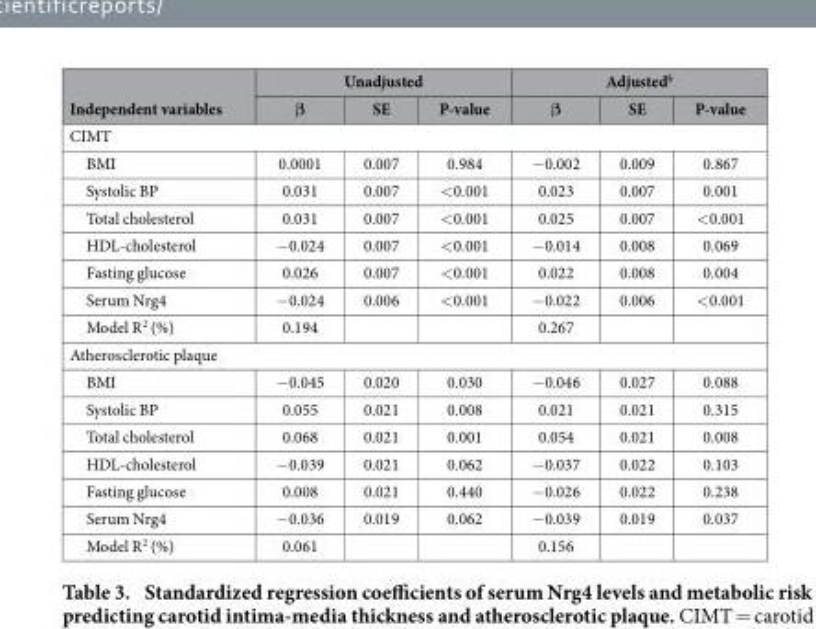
<table><thead><tr><td rowspan="2">Independent variables</td><td colspan="3">Unadjusted</td><td colspan="3">Adjusted<sup>§</sup></td></tr><tr><td>β</td><td>SE</td><td>P-value</td><td>β</td><td>SE</td><td>P-value</td></tr></thead><tbody><tr><td colspan="7">CIMT</td></tr><tr><td>BMI</td><td>0.0001</td><td>0.007</td><td>0.984</td><td>− 0.002</td><td>0.009</td><td>0.867</td></tr><tr><td>Systolic BP</td><td>0.031</td><td>0.007</td><td>&lt; 0.001</td><td>0.023</td><td>0.007</td><td>0.001</td></tr><tr><td>Total cholesterol</td><td>0.031</td><td>0.007</td><td>&lt; 0.001</td><td>0.025</td><td>0.007</td><td>&lt; 0.001</td></tr><tr><td>HDL-cholesterol</td><td>− 0.024</td><td>0.007</td><td>&lt; 0.001</td><td>− 0.014</td><td>0.008</td><td>0.069</td></tr><tr><td>Fasting glucose</td><td>0.026</td><td>0.007</td><td>&lt; 0.001</td><td>0.022</td><td>0.008</td><td>0.004</td></tr><tr><td>Serum Nrg4</td><td>− 0.024</td><td>0.006</td><td>&lt; 0.001</td><td>− 0.022</td><td>0.006</td><td>&lt; 0.001</td></tr><tr><td>Model R<sup>2</sup> (%)</td><td>0.194</td><td></td><td></td><td>0.267</td><td></td><td></td></tr><tr><td colspan="7">Atherosclerotic plaque</td></tr><tr><td>BMI</td><td>− 0.045</td><td>0.020</td><td>0.030</td><td>− 0.046</td><td>0.027</td><td>0.088</td></tr><tr><td>Systolic BP</td><td>0.055</td><td>0.021</td><td>0.008</td><td>0.021</td><td>0.021</td><td>0.315</td></tr><tr><td>Total cholesterol</td><td>0.068</td><td>0.021</td><td>0.001</td><td>0.054</td><td>0.021</td><td>0.008</td></tr><tr><td>HDL-cholesterol</td><td>− 0.039</td><td>0.021</td><td>0.062</td><td>− 0.037</td><td>0.022</td><td>0.103</td></tr><tr><td>Fasting glucose</td><td>0.008</td><td>0.021</td><td>0.440</td><td>− 0.026</td><td>0.022</td><td>0.238</td></tr><tr><td>Serum Nrg4</td><td>− 0.036</td><td>0.019</td><td>0.062</td><td>− 0.039</td><td>0.019</td><td>0.037</td></tr><tr><td>Model R<sup>2</sup> (%)</td><td>0.061</td><td></td><td></td><td>0.156</td><td></td><td></td></tr></tbody></table>